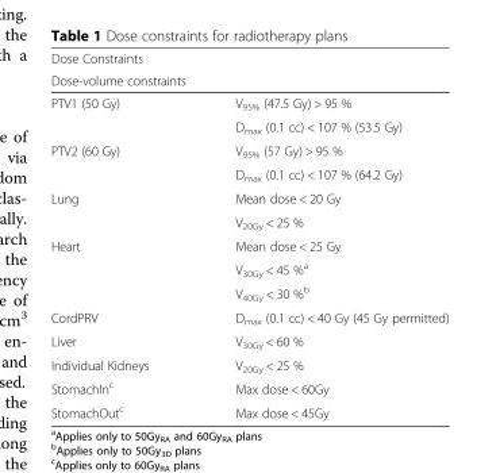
<table><thead><tr><td>Dose Constraints</td><td></td></tr><tr><td colspan="2">Dose-volume constraints</td></tr></thead><tbody><tr><td rowspan="2">PTV1 (50 Gy)</td><td>V<sub>95%</sub> (47.5 Gy) &gt; 95 %</td></tr><tr><td>D<sub>max</sub> (0.1 cc) &lt; 107 % (53.5 Gy)</td></tr><tr><td rowspan="2">PTV2 (60 Gy)</td><td>V<sub>95%</sub> (57 Gy) &gt; 95 %</td></tr><tr><td>D<sub>max</sub> (0.1 cc) &lt; 107 % (64.2 Gy)</td></tr><tr><td rowspan="2">Lung</td><td>Mean dose &lt; 20 Gy</td></tr><tr><td>V<sub>20Gy</sub> &lt; 25 %</td></tr><tr><td rowspan="3">Heart</td><td>Mean dose &lt; 25 Gy</td></tr><tr><td>V<sub>30Gy</sub> &lt; 45 %<sup>a</sup></td></tr><tr><td>V<sub>40Gy</sub> &lt; 30 %<sup>b</sup></td></tr><tr><td>CordPRV</td><td>D<sub>max</sub> (0.1 cc) &lt; 40 Gy (45 Gy permitted)</td></tr><tr><td>Liver</td><td>V<sub>30Gy</sub> &lt; 60 %</td></tr><tr><td>Individual Kidneys</td><td>V<sub>20Gy</sub> &lt; 25 %</td></tr><tr><td>StomachIn<sup>c</sup></td><td>Max dose &lt; 60Gy</td></tr><tr><td>StomachOut<sup>c</sup></td><td>Max dose &lt; 45Gy</td></tr></tbody></table>